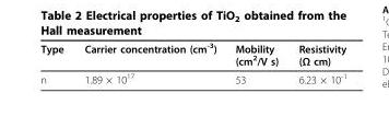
<table><thead><tr><td>Type</td><td>Carrier concentration (cm<sup>-3</sup>)</td><td>Mobility (cm<sup>2</sup>/V s)</td><td>Resistivity (Ω cm)</td></tr></thead><tbody><tr><td>n</td><td>1.89 × 10<sup>17</sup></td><td>53</td><td>6.23 × 10<sup>-1</sup></td></tr></tbody></table>